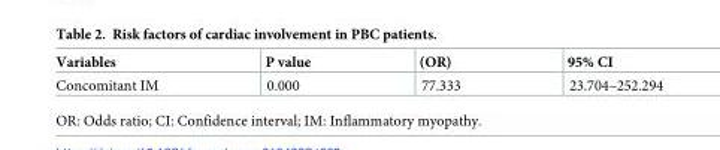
<table><thead><tr><td>Variables</td><td>P value</td><td>(OR)</td><td>95% CI</td></tr></thead><tbody><tr><td>Concomitant IM</td><td>0.000</td><td>77.333</td><td>23.704–252.294</td></tr></tbody></table>